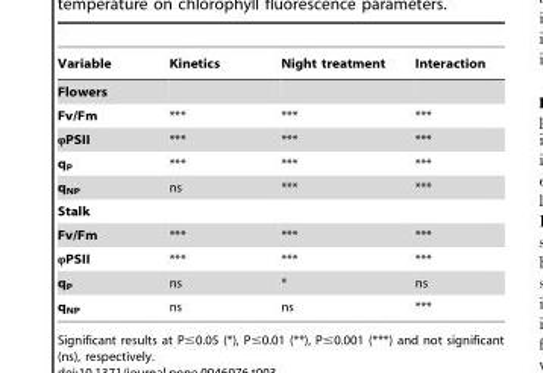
<table><thead><tr><td>Variable</td><td>Kinetics</td><td>Night treatment</td><td>Interaction</td></tr></thead><tbody><tr><td colspan="4">Flowers</td></tr><tr><td>Fv/Fm</td><td>***</td><td>***</td><td>***</td></tr><tr><td>φPSII</td><td>***</td><td>***</td><td>***</td></tr><tr><td>q<sub>P</sub></td><td>***</td><td>***</td><td>***</td></tr><tr><td>q<sub>NP</sub></td><td>ns</td><td>***</td><td>***</td></tr><tr><td colspan="4">Stalk</td></tr><tr><td>Fv/Fm</td><td>***</td><td>***</td><td>***</td></tr><tr><td>φPSII</td><td>***</td><td>***</td><td>***</td></tr><tr><td>q<sub>P</sub></td><td>ns</td><td>*</td><td>ns</td></tr><tr><td>q<sub>NP</sub></td><td>ns</td><td>ns</td><td>***</td></tr></tbody></table>